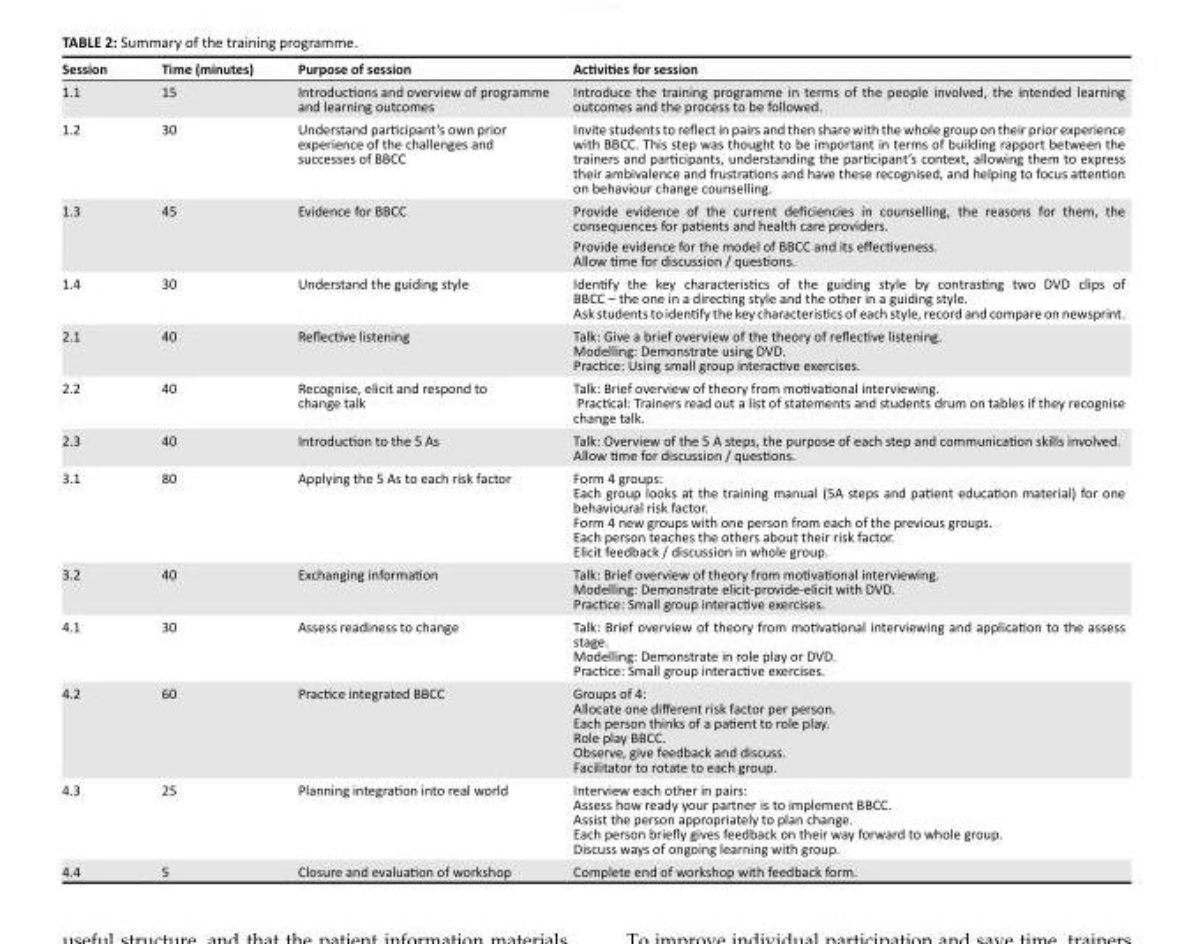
<table><thead><tr><td>Session</td><td>Time (minutes)</td><td>Purpose of session</td><td>Activities for session</td></tr></thead><tbody><tr><td>1.1</td><td>15</td><td>Introductions and overview of programme and learning outcomes</td><td>Introduce the training programme in terms of the people involved, the intended learning outcomes and the process to be followed.</td></tr><tr><td>1.2</td><td>30</td><td>Understand participant’s own prior experience of the challenges and successes of BBCC</td><td>Invite students to reflect in pairs and then share with the whole group on their prior experience with BBCC. This step was thought to be important in terms of building rapport between the trainers and participants, understanding the participant’s context, allowing them to express their ambivalence and frustrations and have these recognised, and helping to focus attention on behaviour change counselling.</td></tr><tr><td>1.3</td><td>45</td><td>Evidence for BBCC</td><td>Provide evidence of the current deficiencies in counselling, the reasons for them, the consequences for patients and health care providers. Provide evidence for the model of BBCC and its effectiveness. Allow time for discussion / questions.</td></tr><tr><td>1.4</td><td>30</td><td>Understand the guiding style</td><td>Identify the key characteristics of the guiding style by contrasting two DVD clips of BBCC – the one in a directing style and the other in a guiding style. Ask students to identify the key characteristics of each style, record and compare on newsprint.</td></tr><tr><td>2.1</td><td>40</td><td>Reflective listening</td><td>Talk: Give a brief overview of the theory of reflective listening. Modelling: Demonstrate using DVD. Practice: Using small group interactive exercises.</td></tr><tr><td>2.2</td><td>40</td><td>Recognise, elicit and respond to change talk</td><td>Talk: Brief overview of theory from motivational interviewing. Practical: Trainers read out a list of statements and students drum on tables if they recognise change talk.</td></tr><tr><td>2.3</td><td>40</td><td>Introduction to the 5 As</td><td>Talk: Overview of the 5 A steps, the purpose of each step and communication skills involved. Allow time for discussion / questions.</td></tr><tr><td>3.1</td><td>80</td><td>Applying the 5 As to each risk factor</td><td>Form 4 groups: Each group looks at the training manual (5A steps and patient education material) for one behavioural risk factor. Form 4 new groups with one person from each of the previous groups. Each person teaches the others about their risk factor. Elicit feedback / discussion in whole group.</td></tr><tr><td>3.2</td><td>40</td><td>Exchanging information</td><td>Talk: Brief overview of theory from motivational interviewing. Modelling: Demonstrate elicit-provide-elicit with DVD. Practice: Small group interactive exercises.</td></tr><tr><td>4.1</td><td>30</td><td>Assess readiness to change</td><td>Talk: Brief overview of theory from motivational interviewing and application to the assess stage. Modelling: Demonstrate in role play or DVD. Practice: Small group interactive exercises.</td></tr><tr><td>4.2</td><td>60</td><td>Practice integrated BBCC</td><td>Groups of 4: Allocate one different risk factor per person. Each person thinks of a patient to role play. Role play BBCC. Observe, give feedback and discuss. Facilitator to rotate to each group.</td></tr><tr><td>4.3</td><td>25</td><td>Planning integration into real world</td><td>Interview each other in pairs: Assess how ready your partner is to implement BBCC. Assist the person appropriately to plan change. Each person briefly gives feedback on their way forward to whole group. Discuss ways of ongoing learning with group.</td></tr><tr><td>4.4</td><td>5</td><td>Closure and evaluation of workshop</td><td>Complete end of workshop with feedback form.</td></tr></tbody></table>